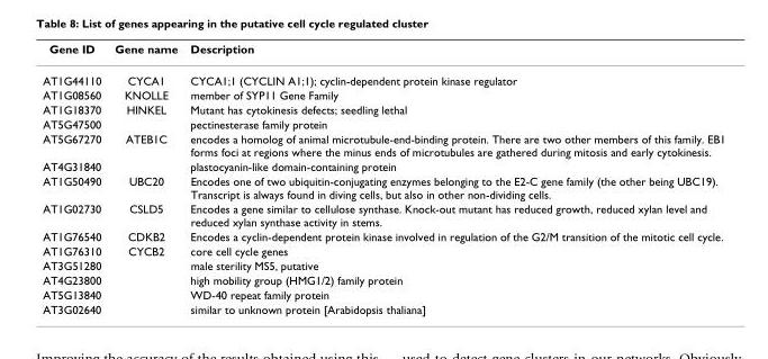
<table><thead><tr><td>Gene ID</td><td>Gene name</td><td>Description</td></tr></thead><tbody><tr><td>AT1G44110</td><td>CYCA1</td><td>CYCA1;1 (CYCLIN A1;1); cyclin-dependent protein kinase regulator</td></tr><tr><td>AT1G08560</td><td>KNOLLE</td><td>member of SYP11 Gene Family</td></tr><tr><td>AT1G18370</td><td>HINKEL</td><td>Mutant has cytokinesis defects; seedling lethal</td></tr><tr><td>AT5G47500</td><td></td><td>pectinesterase family protein</td></tr><tr><td>AT5G67270</td><td>ATEB1C</td><td>encodes a homolog of animal microtubule-end-binding protein. There are two other members of this family. EB1 forms foci at regions where the minus ends of microtubules are gathered during mitosis and early cytokinesis.</td></tr><tr><td>AT4G31840</td><td></td><td>plastocyanin-like domain-containing protein</td></tr><tr><td>AT1G50490</td><td>UBC20</td><td>Encodes one of two ubiquitin-conjugating enzymes belonging to the E2-C gene family (the other being UBC19). Transcript is always found in diving cells, but also in other non-dividing cells.</td></tr><tr><td>AT1G02730</td><td>CSLD5</td><td>Encodes a gene similar to cellulose synthase. Knock-out mutant has reduced growth, reduced xylan level and reduced xylan synthase activity in stems.</td></tr><tr><td>AT1G76540</td><td>CDKB2</td><td>Encodes a cyclin-dependent protein kinase involved in regulation of the G2/M transition of the mitotic cell cycle.</td></tr><tr><td>AT1G76310</td><td>CYCB2</td><td>core cell cycle genes</td></tr><tr><td>AT3G51280</td><td></td><td>male sterility MS5, putative</td></tr><tr><td>AT4G23800</td><td></td><td>high mobility group (HMG1/2) family protein</td></tr><tr><td>AT5G13840</td><td></td><td>WD-40 repeat family protein</td></tr><tr><td>AT3G02640</td><td></td><td>similar to unknown protein [Arabidopsis thaliana]</td></tr></tbody></table>